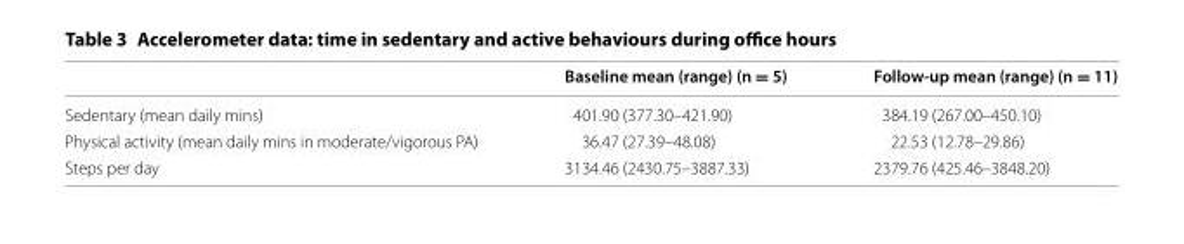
<table><thead><tr><td></td><td>Baseline mean (range) (n = 5)</td><td>Follow-up mean (range) (n = 11)</td></tr></thead><tbody><tr><td>Sedentary (mean daily mins)</td><td>401.90 (377.30–421.90)</td><td>384.19 (267.00–450.10)</td></tr><tr><td>Physical activity (mean daily mins in moderate/vigorous PA)</td><td>36.47 (27.39–48.08)</td><td>22.53 (12.78–29.86)</td></tr><tr><td>Steps per day</td><td>3134.46 (2430.75–3887.33)</td><td>2379.76 (425.46–3848.20)</td></tr></tbody></table>